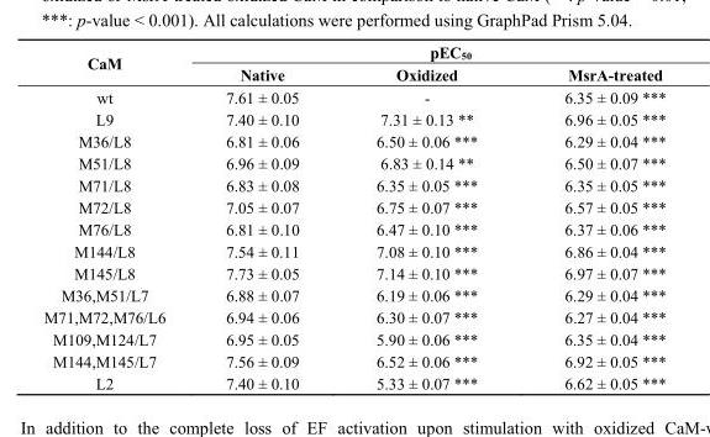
<table><thead><tr><td rowspan="2">CaM</td><td colspan="3">pEC<sub>50</sub></td></tr><tr><td>Native</td><td>Oxidized</td><td>MsrA-treated</td></tr></thead><tbody><tr><td>wt</td><td>7.61 ± 0.05</td><td>-</td><td>6.35 ± 0.09 ***</td></tr><tr><td>L9</td><td>7.40 ± 0.10</td><td>7.31 ± 0.13 **</td><td>6.96 ± 0.05 ***</td></tr><tr><td>M36/L8</td><td>6.81 ± 0.06</td><td>6.50 ± 0.06 ***</td><td>6.29 ± 0.04 ***</td></tr><tr><td>M51/L8</td><td>6.96 ± 0.09</td><td>6.83 ± 0.14 **</td><td>6.50 ± 0.07 ***</td></tr><tr><td>M71/L8</td><td>6.83 ± 0.08</td><td>6.35 ± 0.05 ***</td><td>6.35 ± 0.05 ***</td></tr><tr><td>M72/L8</td><td>7.05 ± 0.07</td><td>6.75 ± 0.07 ***</td><td>6.57 ± 0.05 ***</td></tr><tr><td>M76/L8</td><td>6.81 ± 0.10</td><td>6.47 ± 0.10 ***</td><td>6.37 ± 0.06 ***</td></tr><tr><td>M144/L8</td><td>7.54 ± 0.11</td><td>7.08 ± 0.10 ***</td><td>6.86 ± 0.04 ***</td></tr><tr><td>M145/L8</td><td>7.73 ± 0.05</td><td>7.14 ± 0.10 ***</td><td>6.97 ± 0.07 ***</td></tr><tr><td>M36,M51/L7</td><td>6.88 ± 0.07</td><td>6.19 ± 0.06 ***</td><td>6.29 ± 0.04 ***</td></tr><tr><td>M71,M72,M76/L6</td><td>6.94 ± 0.06</td><td>6.30 ± 0.07 ***</td><td>6.27 ± 0.04 ***</td></tr><tr><td>M109,M124/L7</td><td>6.95 ± 0.05</td><td>5.90 ± 0.06 ***</td><td>6.35 ± 0.04 ***</td></tr><tr><td>M144,M145/L7</td><td>7.56 ± 0.09</td><td>6.52 ± 0.06 ***</td><td>6.92 ± 0.05 ***</td></tr><tr><td>L2</td><td>7.40 ± 0.10</td><td>5.33 ± 0.07 ***</td><td>6.62 ± 0.05 ***</td></tr></tbody></table>